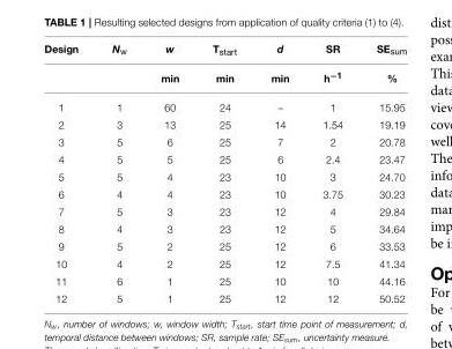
<table><thead><tr><td>Design</td><td>N<sub>w</sub></td><td>w</td><td>T<sub>start</sub></td><td>d</td><td>SR</td><td>SE<sub>sum</sub></td></tr></thead><tbody><tr><td></td><td></td><td>min</td><td>min</td><td>min</td><td>h<sup>−1</sup></td><td>%</td></tr><tr><td>1</td><td>1</td><td>60</td><td>24</td><td>–</td><td>1</td><td>15.95</td></tr><tr><td>2</td><td>3</td><td>13</td><td>25</td><td>14</td><td>1.54</td><td>19.19</td></tr><tr><td>3</td><td>5</td><td>6</td><td>25</td><td>7</td><td>2</td><td>20.78</td></tr><tr><td>4</td><td>5</td><td>5</td><td>25</td><td>6</td><td>2.4</td><td>23.47</td></tr><tr><td>5</td><td>5</td><td>4</td><td>23</td><td>10</td><td>3</td><td>24.70</td></tr><tr><td>6</td><td>4</td><td>4</td><td>23</td><td>10</td><td>3.75</td><td>30.23</td></tr><tr><td>7</td><td>5</td><td>3</td><td>23</td><td>12</td><td>4</td><td>29.84</td></tr><tr><td>8</td><td>4</td><td>3</td><td>23</td><td>12</td><td>5</td><td>34.64</td></tr><tr><td>9</td><td>5</td><td>2</td><td>25</td><td>12</td><td>6</td><td>33.53</td></tr><tr><td>10</td><td>4</td><td>2</td><td>25</td><td>12</td><td>7.5</td><td>41.34</td></tr><tr><td>11</td><td>6</td><td>1</td><td>25</td><td>10</td><td>10</td><td>44.16</td></tr><tr><td>12</td><td>5</td><td>1</td><td>25</td><td>12</td><td>12</td><td>50.52</td></tr></tbody></table>